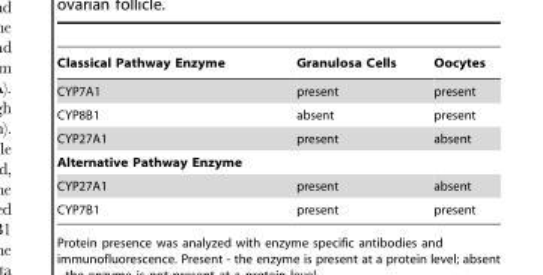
<table><thead><tr><td>Classical Pathway Enzyme</td><td>Granulosa Cells</td><td>Oocytes</td></tr></thead><tbody><tr><td>CYP7A1</td><td>present</td><td>present</td></tr><tr><td>CYP8B1</td><td>absent</td><td>present</td></tr><tr><td>CYP27A1</td><td>present</td><td>absent</td></tr><tr><td colspan="3">Alternative Pathway Enzyme</td></tr><tr><td>CYP27A1</td><td>present</td><td>absent</td></tr><tr><td>CYP7B1</td><td>present</td><td>present</td></tr></tbody></table>